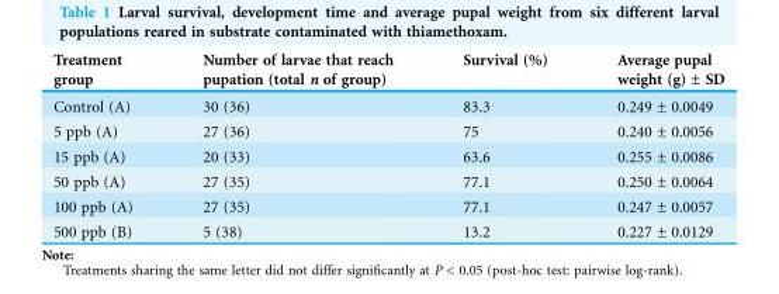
<table><thead><tr><td>Treatment group</td><td>Number of larvae that reach pupation (total n of group)</td><td>Survival (%)</td><td>Average pupal weight (g) ± SD</td></tr></thead><tbody><tr><td>Control (A)</td><td>30 (36)</td><td>83.3</td><td>0.249 ± 0.0049</td></tr><tr><td>5 ppb (A)</td><td>27 (36)</td><td>75</td><td>0.240 ± 0.0056</td></tr><tr><td>15 ppb (A)</td><td>20 (33)</td><td>63.6</td><td>0.255 ± 0.0086</td></tr><tr><td>50 ppb (A)</td><td>27 (35)</td><td>77.1</td><td>0.250 ± 0.0064</td></tr><tr><td>100 ppb (A)</td><td>27 (35)</td><td>77.1</td><td>0.247 ± 0.0057</td></tr><tr><td>500 ppb (B)</td><td>5 (38)</td><td>13.2</td><td>0.227 ± 0.0129</td></tr></tbody></table>